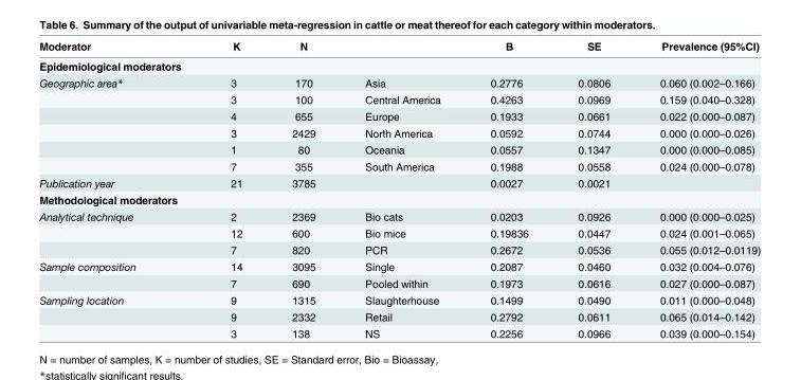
<table><thead><tr><td>Moderator</td><td>K</td><td>N</td><td></td><td>Β</td><td>SE</td><td>Prevalence (95%CI)</td></tr></thead><tbody><tr><td colspan="7">Epidemiological moderators</td></tr><tr><td rowspan="6">Geographic area*</td><td>3</td><td>170</td><td>Asia</td><td>0.2776</td><td>0.0806</td><td>0.060 (0.002–0.166)</td></tr><tr><td>3</td><td>100</td><td>Central America</td><td>0.4263</td><td>0.0969</td><td>0.159 (0.040–0.328)</td></tr><tr><td>4</td><td>655</td><td>Europe</td><td>0.1933</td><td>0.0661</td><td>0.022 (0.000–0.087)</td></tr><tr><td>3</td><td>2429</td><td>North America</td><td>0.0592</td><td>0.0744</td><td>0.000 (0.000–0.026)</td></tr><tr><td>1</td><td>80</td><td>Oceania</td><td>0.0557</td><td>0.1347</td><td>0.000 (0.000–0.085)</td></tr><tr><td>7</td><td>355</td><td>South America</td><td>0.1988</td><td>0.0558</td><td>0.024 (0.000–0.078)</td></tr><tr><td>Publication year</td><td>21</td><td>3785</td><td></td><td>0.0027</td><td>0.0021</td><td></td></tr><tr><td colspan="7">Methodological moderators</td></tr><tr><td rowspan="3">Analytical technique</td><td>2</td><td>2369</td><td>Bio cats</td><td>0.0203</td><td>0.0926</td><td>0.000 (0.000–0.025)</td></tr><tr><td>12</td><td>600</td><td>Bio mice</td><td>0.19836</td><td>0.0447</td><td>0.024 (0.001–0.065)</td></tr><tr><td>7</td><td>820</td><td>PCR</td><td>0.2672</td><td>0.0536</td><td>0.055 (0.012–0.0119)</td></tr><tr><td rowspan="2">Sample composition</td><td>14</td><td>3095</td><td>Single</td><td>0.2087</td><td>0.0460</td><td>0.032 (0.004–0.076)</td></tr><tr><td>7</td><td>690</td><td>Pooled within</td><td>0.1973</td><td>0.0616</td><td>0.027 (0.000–0.087)</td></tr><tr><td rowspan="3">Sampling location</td><td>9</td><td>1315</td><td>Slaughterhouse</td><td>0.1499</td><td>0.0490</td><td>0.011 (0.000–0.048)</td></tr><tr><td>9</td><td>2332</td><td>Retail</td><td>0.2792</td><td>0.0611</td><td>0.065 (0.014–0.142)</td></tr><tr><td>3</td><td>138</td><td>NS</td><td>0.2256</td><td>0.0966</td><td>0.039 (0.000–0.154)</td></tr></tbody></table>